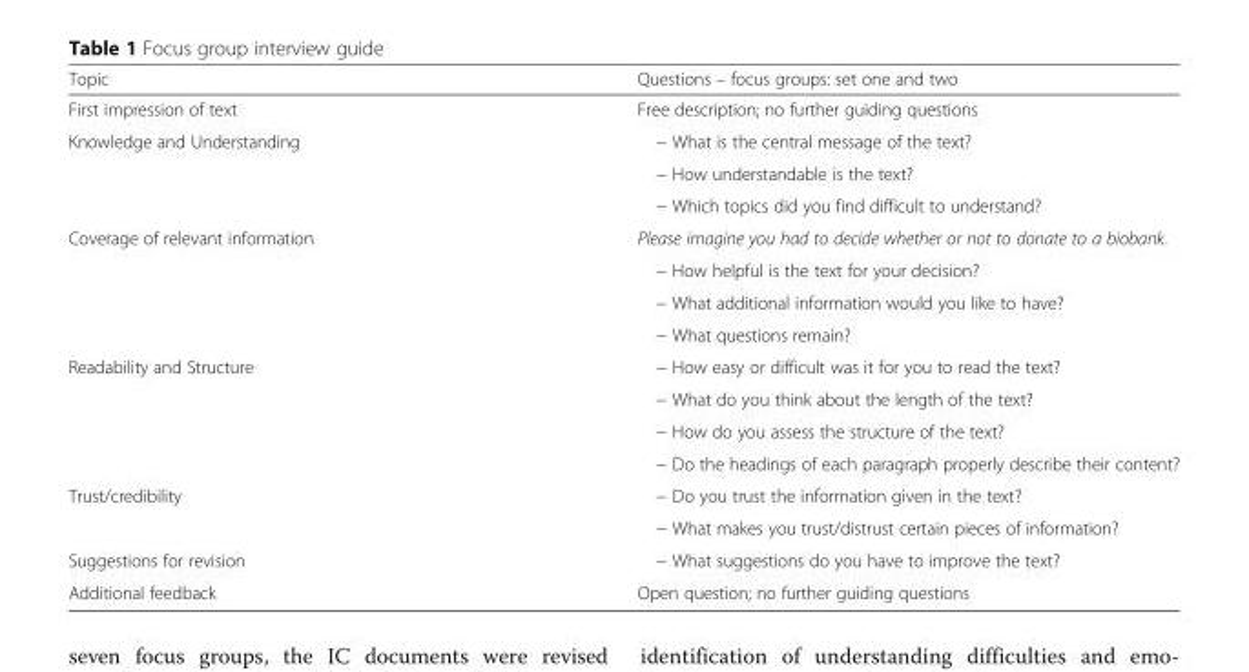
<table><thead><tr><td>Topic</td><td>Questions – focus groups: set one and two</td></tr></thead><tbody><tr><td>First impression of text</td><td>Free description; no further guiding questions</td></tr><tr><td rowspan="3">Knowledge and Understanding</td><td>− What is the central message of the text?</td></tr><tr><td>− How understandable is the text?</td></tr><tr><td>− Which topics did you find difficult to understand?</td></tr><tr><td rowspan="4">Coverage of relevant information</td><td>Please imagine you had to decide whether or not to donate to a biobank.</td></tr><tr><td>− How helpful is the text for your decision?</td></tr><tr><td>− What additional information would you like to have?</td></tr><tr><td>− What questions remain?</td></tr><tr><td rowspan="4">Readability and Structure</td><td>− How easy or difficult was it for you to read the text?</td></tr><tr><td>− What do you think about the length of the text?</td></tr><tr><td>− How do you assess the structure of the text?</td></tr><tr><td>− Do the headings of each paragraph properly describe their content?</td></tr><tr><td rowspan="2">Trust/credibility</td><td>− Do you trust the information given in the text?</td></tr><tr><td>− What makes you trust/distrust certain pieces of information?</td></tr><tr><td>Suggestions for revision</td><td>− What suggestions do you have to improve the text?</td></tr><tr><td>Additional feedback</td><td>Open question; no further guiding questions</td></tr></tbody></table>